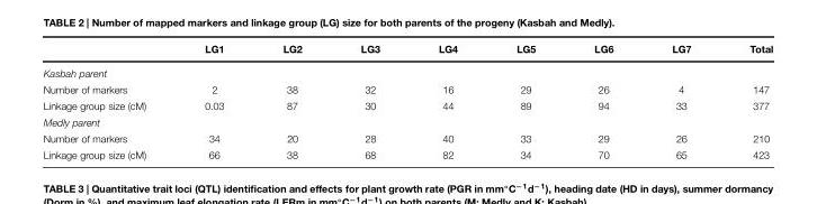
<table><thead><tr><td></td><td>LG1</td><td>LG2</td><td>LG3</td><td>LG4</td><td>LG5</td><td>LG6</td><td>LG7</td><td>Total</td></tr></thead><tbody><tr><td colspan="9">Kasbah parent</td></tr><tr><td>Number of markers</td><td>2</td><td>38</td><td>32</td><td>16</td><td>29</td><td>26</td><td>4</td><td>147</td></tr><tr><td>Linkage group size (cM)</td><td>0.03</td><td>87</td><td>30</td><td>44</td><td>89</td><td>94</td><td>33</td><td>377</td></tr><tr><td colspan="9">Medly parent</td></tr><tr><td>Number of markers</td><td>34</td><td>20</td><td>28</td><td>40</td><td>33</td><td>29</td><td>26</td><td>210</td></tr><tr><td>Linkage group size (cM)</td><td>66</td><td>38</td><td>68</td><td>82</td><td>34</td><td>70</td><td>65</td><td>423</td></tr></tbody></table>